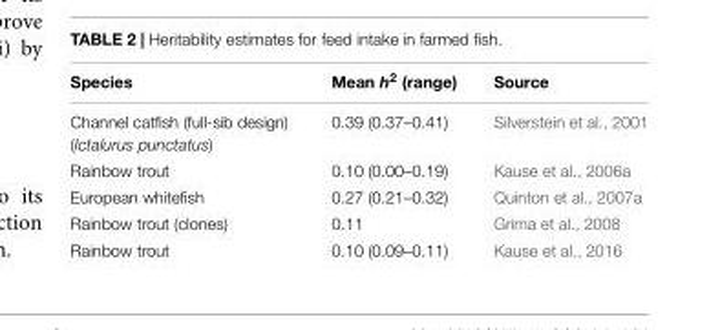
<table><thead><tr><td>Species</td><td>Mean h<sup>2</sup> (range)</td><td>Source</td></tr></thead><tbody><tr><td>Channel catfish (full-sib design) (Ictalurus punctatus)</td><td>0.39 (0.37–0.41)</td><td>Silverstein et al., 2001</td></tr><tr><td>Rainbow trout</td><td>0.10 (0.00–0.19)</td><td>Kause et al., 2006a</td></tr><tr><td>European whitefish</td><td>0.27 (0.21–0.32)</td><td>Quinton et al., 2007a</td></tr><tr><td>Rainbow trout (clones)</td><td>0.11</td><td>Grima et al., 2008</td></tr><tr><td>Rainbow trout</td><td>0.10 (0.09–0.11)</td><td>Kause et al., 2016</td></tr></tbody></table>